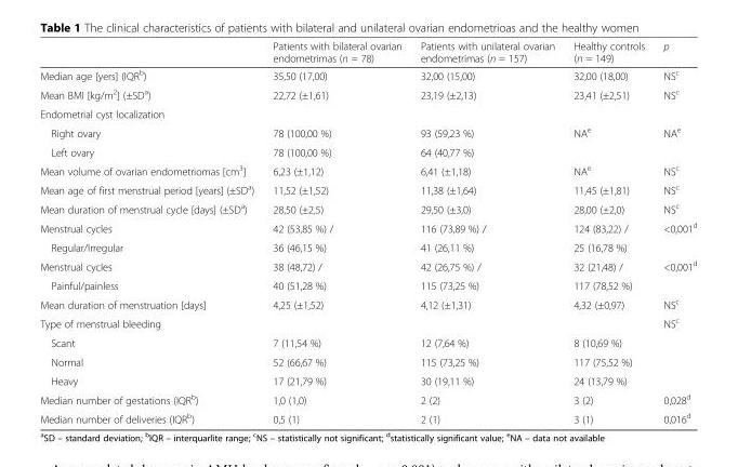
<table><thead><tr><td></td><td>Patients with bilateral ovarian endometrimas (n = 78)</td><td>Patients with unilateral ovarian endometrimas (n = 157)</td><td>Healthy controls (n = 149)</td><td>p</td></tr></thead><tbody><tr><td>Median age [yers] (IQR<sup>b</sup>)</td><td>35,50 (17,00)</td><td>32,00 (15,00)</td><td>32,00 (18,00)</td><td>NS<sup>c</sup></td></tr><tr><td>Mean BMI [kg/m<sup>2</sup>] (±SD<sup>a</sup>)</td><td>22,72 (±1,61)</td><td>23,19 (±2,13)</td><td>23,41 (±2,51)</td><td>NS<sup>c</sup></td></tr><tr><td colspan="5">Endometrial cyst localization</td></tr><tr><td>Right ovary</td><td>78 (100,00 %)</td><td>93 (59,23 %)</td><td rowspan="2">NA<sup>e</sup></td><td rowspan="2">NA<sup>e</sup></td></tr><tr><td>Left ovary</td><td>78 (100,00 %)</td><td>64 (40,77 %)</td></tr><tr><td>Mean volume of ovarian endometriomas [cm<sup>3</sup>]</td><td>6,23 (±1,12)</td><td>6,41 (±1,18)</td><td>NA<sup>e</sup></td><td>NS<sup>c</sup></td></tr><tr><td>Mean age of first menstrual period [years] (±SD<sup>a</sup>)</td><td>11,52 (±1,52)</td><td>11,38 (±1,64)</td><td>11,45 (±1,81)</td><td>NS<sup>c</sup></td></tr><tr><td>Mean duration of menstrual cycle [days] (±SD<sup>a</sup>)</td><td>28,50 (±2,5)</td><td>29,50 (±3,0)</td><td>28,00 (±2,0)</td><td>NS<sup>c</sup></td></tr><tr><td>Menstrual cycles</td><td>42 (53,85 %) /</td><td>116 (73,89 %) /</td><td>124 (83,22) /</td><td rowspan="2">&lt;0,001<sup>d</sup></td></tr><tr><td>Regular/Irregular</td><td>36 (46,15 %)</td><td>41 (26,11 %)</td><td>25 (16,78 %)</td></tr><tr><td>Menstrual cycles</td><td>38 (48,72) /</td><td>42 (26,75 %) /</td><td>32 (21,48) /</td><td rowspan="2">&lt;0,001<sup>d</sup></td></tr><tr><td>Painful/painless</td><td>40 (51,28 %)</td><td>115 (73,25 %)</td><td>117 (78,52 %)</td></tr><tr><td>Mean duration of menstruation [days]</td><td>4,25 (±1,52)</td><td>4,12 (±1,31)</td><td>4,32 (±0,97)</td><td>NS<sup>c</sup></td></tr><tr><td colspan="4">Type of menstrual bleeding</td><td rowspan="4">NS<sup>c</sup></td></tr><tr><td>Scant</td><td>7 (11,54 %)</td><td>12 (7,64 %)</td><td>8 (10,69 %)</td></tr><tr><td>Normal</td><td>52 (66,67 %)</td><td>115 (73,25 %)</td><td>117 (75,52 %)</td></tr><tr><td>Heavy</td><td>17 (21,79 %)</td><td>30 (19,11 %)</td><td>24 (13,79 %)</td></tr><tr><td>Median number of gestations (IQR<sup>b</sup>)</td><td>1,0 (1,0)</td><td>2 (2)</td><td>3 (2)</td><td>0,028<sup>d</sup></td></tr><tr><td>Median number of deliveries (IQR<sup>b</sup>)</td><td>0,5 (1)</td><td>2 (1)</td><td>3 (1)</td><td>0,016<sup>d</sup></td></tr></tbody></table>